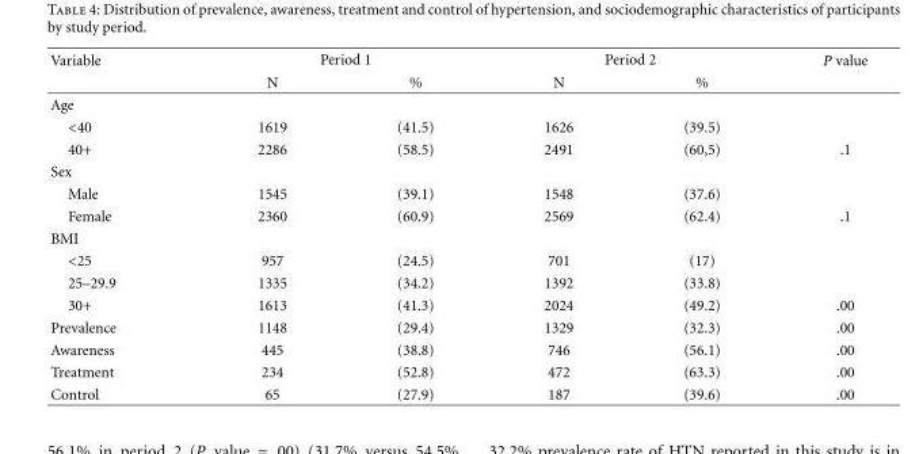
<table><thead><tr><td rowspan="2">Variable</td><td colspan="2">Period 1</td><td colspan="2">Period 2</td><td rowspan="2">P value</td></tr><tr><td>N</td><td>%</td><td>N</td><td>%</td></tr></thead><tbody><tr><td colspan="6">Age</td></tr><tr><td>&lt;40</td><td>1619</td><td>(41.5)</td><td>1626</td><td>(39.5)</td><td></td></tr><tr><td>40+</td><td>2286</td><td>(58.5)</td><td>2491</td><td>(60,5)</td><td>.1</td></tr><tr><td colspan="6">Sex</td></tr><tr><td>Male</td><td>1545</td><td>(39.1)</td><td>1548</td><td>(37.6)</td><td></td></tr><tr><td>Female</td><td>2360</td><td>(60.9)</td><td>2569</td><td>(62.4)</td><td>.1</td></tr><tr><td colspan="6">BMI</td></tr><tr><td>&lt;25</td><td>957</td><td>(24.5)</td><td>701</td><td>(17)</td><td></td></tr><tr><td>25–29.9</td><td>1335</td><td>(34.2)</td><td>1392</td><td>(33.8)</td><td></td></tr><tr><td>30+</td><td>1613</td><td>(41.3)</td><td>2024</td><td>(49.2)</td><td>.00</td></tr><tr><td>Prevalence</td><td>1148</td><td>(29.4)</td><td>1329</td><td>(32.3)</td><td>.00</td></tr><tr><td>Awareness</td><td>445</td><td>(38.8)</td><td>746</td><td>(56.1)</td><td>.00</td></tr><tr><td>Treatment</td><td>234</td><td>(52.8)</td><td>472</td><td>(63.3)</td><td>.00</td></tr><tr><td>Control</td><td>65</td><td>(27.9)</td><td>187</td><td>(39.6)</td><td>.00</td></tr></tbody></table>